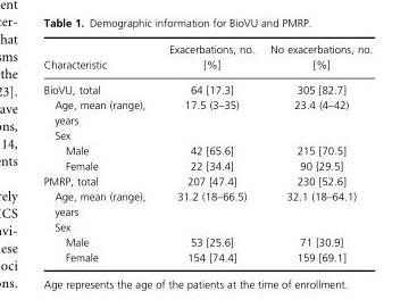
<table><thead><tr><td>Characteristic</td><td>Exacerbations, no. [%]</td><td>No exacerbations, no. [%]</td></tr></thead><tbody><tr><td>BioVU, total</td><td>64 [17.3]</td><td>305 [82.7]</td></tr><tr><td>Age, mean (range), years</td><td>17.5 (3–35)</td><td>23.4 (4–42)</td></tr><tr><td colspan="3">Sex</td></tr><tr><td>Male</td><td>42 [65.6]</td><td>215 [70.5]</td></tr><tr><td>Female</td><td>22 [34.4]</td><td>90 [29.5]</td></tr><tr><td>PMRP, total</td><td>207 [47.4]</td><td>230 [52.6]</td></tr><tr><td>Age, mean (range), years</td><td>31.2 (18–66.5)</td><td>32.1 (18–64.1)</td></tr><tr><td colspan="3">Sex</td></tr><tr><td>Male</td><td>53 [25.6]</td><td>71 [30.9]</td></tr><tr><td>Female</td><td>154 [74.4]</td><td>159 [69.1]</td></tr></tbody></table>